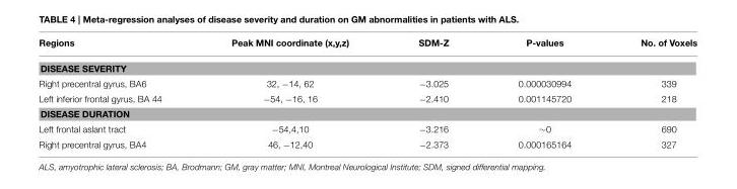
<table><thead><tr><td>Regions</td><td>Peak MNI coordinate (x,y,z)</td><td>SDM-Z</td><td>P-values</td><td>No. of Voxels</td></tr></thead><tbody><tr><td colspan="5">DISEASE SEVERITY</td></tr><tr><td>Right precentral gyrus, BA6</td><td>32, −14, 62</td><td>−3.025</td><td>0.000030994</td><td>339</td></tr><tr><td>Left inferior frontal gyrus, BA 44</td><td>−54, −16, 16</td><td>−2.410</td><td>0.001145720</td><td>218</td></tr><tr><td colspan="5">DISEASE DURATION</td></tr><tr><td>Left frontal aslant tract</td><td>−54,4,10</td><td>−3.216</td><td>∼0</td><td>690</td></tr><tr><td>Right precentral gyrus, BA4</td><td>46, −12,40</td><td>−2.373</td><td>0.000165164</td><td>327</td></tr></tbody></table>